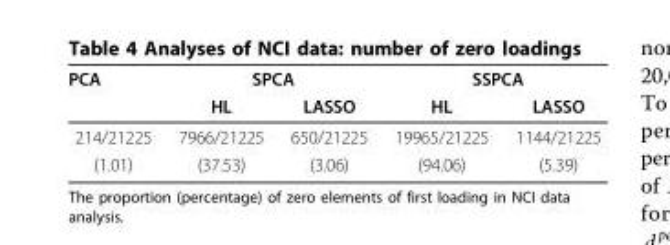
<table><thead><tr><td rowspan="2">PCA</td><td colspan="2">SPCA</td><td colspan="2">SSPCA</td></tr><tr><td>HL</td><td>LASSO</td><td>HL</td><td>LASSO</td></tr></thead><tbody><tr><td>214/21225</td><td>7966/21225</td><td>650/21225</td><td>19965/21225</td><td>1144/21225</td></tr><tr><td>(1.01)</td><td>(37.53)</td><td>(3.06)</td><td>(94.06)</td><td>(5.39)</td></tr></tbody></table>